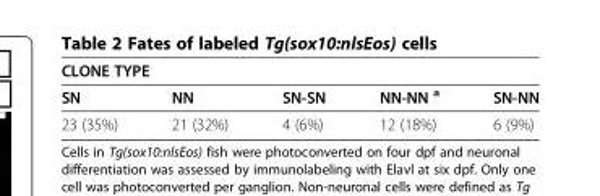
<table><thead><tr><td colspan="5">CLONE TYPE</td></tr><tr><td>SN</td><td>NN</td><td>SN-SN</td><td>NN-NN <sup>a</sup></td><td>SN-NN</td></tr></thead><tbody><tr><td>23 (35%)</td><td>21 (32%)</td><td>4 (6%)</td><td>12 (18%)</td><td>6 (9%)</td></tr></tbody></table>